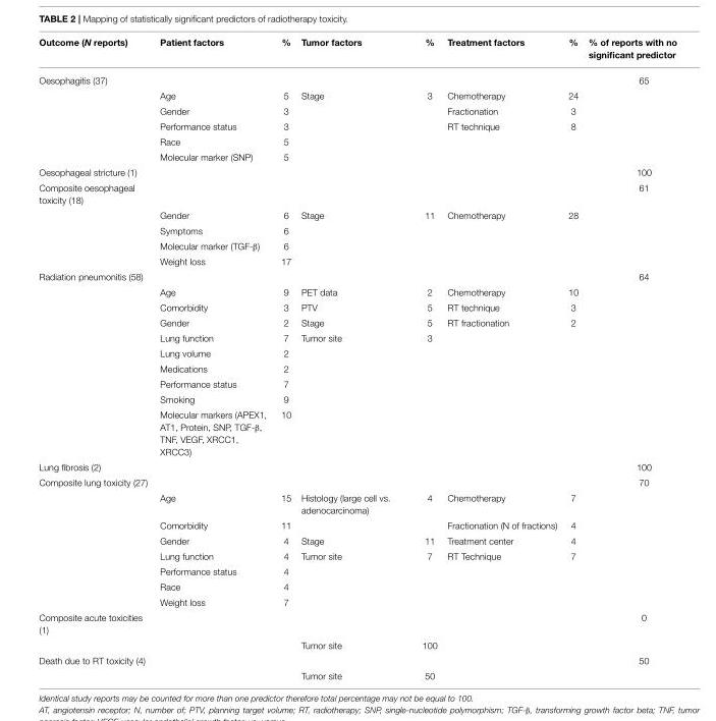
<table><thead><tr><td>Outcome (N reports)</td><td>Patient factors</td><td>%</td><td>Tumor factors</td><td>%</td><td>Treatment factors</td><td>%</td><td>% of reports with no significant predictor</td></tr></thead><tbody><tr><td rowspan="6">Oesophagitis (37)</td><td></td><td></td><td></td><td></td><td></td><td></td><td>65</td></tr><tr><td>Age</td><td>5</td><td>Stage</td><td>3</td><td>Chemotherapy</td><td>24</td><td></td></tr><tr><td>Gender</td><td>3</td><td></td><td></td><td>Fractionation</td><td>3</td><td></td></tr><tr><td>Performance status</td><td>3</td><td></td><td></td><td>RT technique</td><td>8</td><td></td></tr><tr><td>Race</td><td>5</td><td></td><td></td><td></td><td></td><td></td></tr><tr><td>Molecular marker (SNP)</td><td>5</td><td></td><td></td><td></td><td></td><td></td></tr><tr><td>Oesophageal stricture (1)</td><td></td><td></td><td></td><td></td><td></td><td></td><td>100</td></tr><tr><td rowspan="5">Composite oesophageal toxicity (18)</td><td></td><td></td><td></td><td></td><td></td><td></td><td>61</td></tr><tr><td>Gender</td><td>6</td><td>Stage</td><td>11</td><td>Chemotherapy</td><td>28</td><td></td></tr><tr><td>Symptoms</td><td>6</td><td></td><td></td><td></td><td></td><td></td></tr><tr><td>Molecular marker (TGF-β)</td><td>6</td><td></td><td></td><td></td><td></td><td></td></tr><tr><td>Weight loss</td><td>17</td><td></td><td></td><td></td><td></td><td></td></tr><tr><td rowspan="10">Radiation pneumonitis (58)</td><td></td><td></td><td></td><td></td><td></td><td></td><td>64</td></tr><tr><td>Age</td><td>9</td><td>PET data</td><td>2</td><td>Chemotherapy</td><td>10</td><td></td></tr><tr><td>Comorbidity</td><td>3</td><td>PTV</td><td>5</td><td>RT technique</td><td>3</td><td></td></tr><tr><td>Gender</td><td>2</td><td>Stage</td><td>5</td><td>RT fractionation</td><td>2</td><td></td></tr><tr><td>Lung function</td><td>7</td><td>Tumor site</td><td>3</td><td></td><td></td><td></td></tr><tr><td>Lung volume</td><td>2</td><td></td><td></td><td></td><td></td><td></td></tr><tr><td>Medications</td><td>2</td><td></td><td></td><td></td><td></td><td></td></tr><tr><td>Performance status</td><td>7</td><td></td><td></td><td></td><td></td><td></td></tr><tr><td>Smoking</td><td>9</td><td></td><td></td><td></td><td></td><td></td></tr><tr><td>Molecular markers (APEX1, AT1, Protein, SNP, TGF-β, TNF, VEGF, XRCC1, XRCC3)</td><td>10</td><td></td><td></td><td></td><td></td><td></td></tr><tr><td>Lung fibrosis (2)</td><td></td><td></td><td></td><td></td><td></td><td></td><td>100</td></tr><tr><td rowspan="8">Composite lung toxicity (27)</td><td></td><td></td><td></td><td></td><td></td><td></td><td>70</td></tr><tr><td>Age</td><td>15</td><td>Histology (large cell vs. adenocarcinoma)</td><td>4</td><td>Chemotherapy</td><td>7</td><td></td></tr><tr><td>Comorbidity</td><td>11</td><td></td><td></td><td>Fractionation (N of fractions)</td><td>4</td><td></td></tr><tr><td>Gender</td><td>4</td><td>Stage</td><td>11</td><td>Treatment center</td><td>4</td><td></td></tr><tr><td>Lung function</td><td>4</td><td>Tumor site</td><td>7</td><td>RT Technique</td><td>7</td><td></td></tr><tr><td>Performance status</td><td>4</td><td></td><td></td><td></td><td></td><td></td></tr><tr><td>Race</td><td>4</td><td></td><td></td><td></td><td></td><td></td></tr><tr><td>Weight loss</td><td>7</td><td></td><td></td><td></td><td></td><td></td></tr><tr><td rowspan="2">Composite acute toxicities (1)</td><td></td><td></td><td></td><td></td><td></td><td></td><td>0</td></tr><tr><td></td><td></td><td>Tumor site</td><td>100</td><td></td><td></td><td></td></tr><tr><td rowspan="2">Death due to RT toxicity (4)</td><td></td><td></td><td></td><td></td><td></td><td></td><td>50</td></tr><tr><td></td><td></td><td>Tumor site</td><td>50</td><td></td><td></td><td></td></tr></tbody></table>